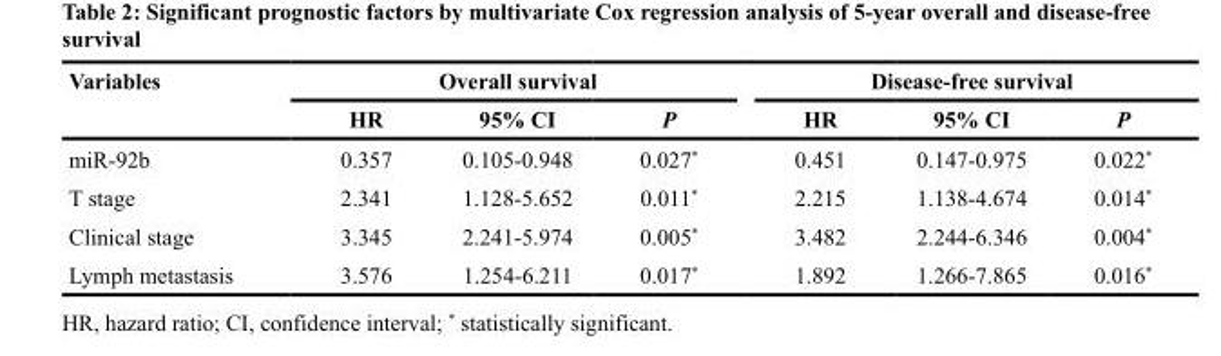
<table><thead><tr><td rowspan="2">Variables</td><td colspan="3">Overall survival</td><td colspan="3">Disease-free survival</td></tr><tr><td>HR</td><td>95% CI</td><td>P</td><td>HR</td><td>95% CI</td><td>P</td></tr></thead><tbody><tr><td>miR-92b</td><td>0.357</td><td>0.105-0.948</td><td>0.027*</td><td>0.451</td><td>0.147-0.975</td><td>0.022*</td></tr><tr><td>T stage</td><td>2.341</td><td>1.128-5.652</td><td>0.011*</td><td>2.215</td><td>1.138-4.674</td><td>0.014*</td></tr><tr><td>Clinical stage</td><td>3.345</td><td>2.241-5.974</td><td>0.005*</td><td>3.482</td><td>2.244-6.346</td><td>0.004*</td></tr><tr><td>Lymph metastasis</td><td>3.576</td><td>1.254-6.211</td><td>0.017*</td><td>1.892</td><td>1.266-7.865</td><td>0.016*</td></tr></tbody></table>